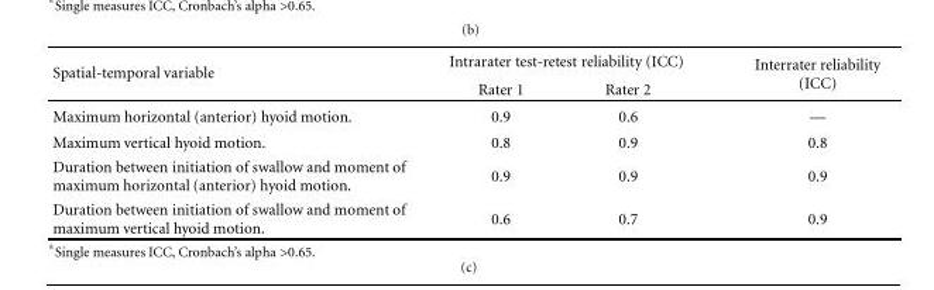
<table><tbody><tr><td rowspan="2">Spatial-temporal variable</td><td colspan="2">Intrarater test-retest reliability (ICC)</td><td rowspan="2">Interrater reliability (ICC)</td></tr><tr><td>Rater 1</td><td>Rater 2</td></tr><tr><td>Maximum horizontal (anterior) hyoid motion.</td><td>0.9</td><td>0.6</td><td>—</td></tr><tr><td>Maximum vertical hyoid motion.</td><td>0.8</td><td>0.9</td><td>0.8</td></tr><tr><td>Duration between initiation of swallow and moment of maximum horizontal (anterior) hyoid motion.</td><td>0.9</td><td>0.9</td><td>0.9</td></tr><tr><td>Duration between initiation of swallow and moment of maximum vertical hyoid motion.</td><td>0.6</td><td>0.7</td><td>0.9</td></tr></tbody></table>